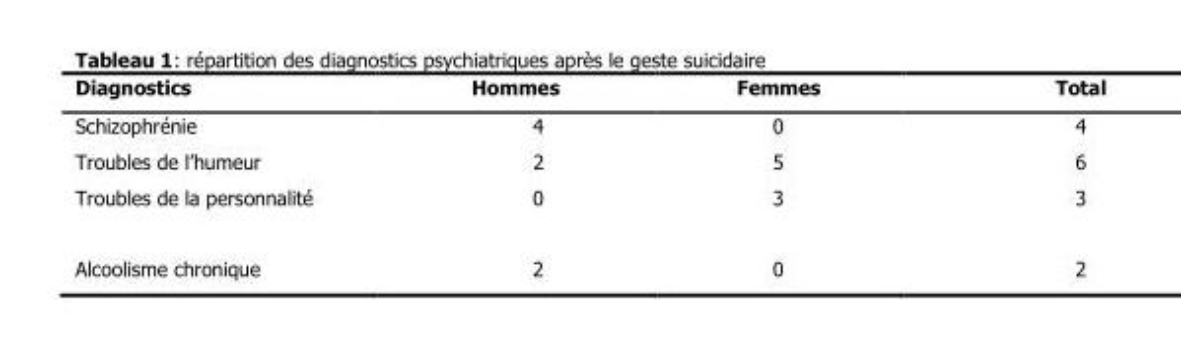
<table><thead><tr><td rowspan="5">Diagnostics Schizophrénie Troubles de l’humeur Troubles de la personnalité Alcoolisme chronique</td><td rowspan="5">Hommes 4 2 0 2</td><td rowspan="5">Femmes 0 5 3 0</td><td rowspan="5">Total 4 6 3 2</td></tr><tr></tr><tr></tr><tr></tr><tr></tr></thead><tbody></tbody></table>